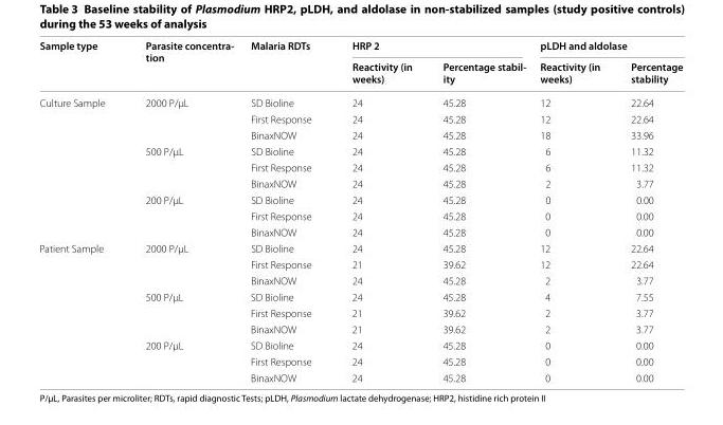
<table><thead><tr><td rowspan="2">Sample type</td><td rowspan="2">Parasite concentra‑ tion</td><td rowspan="2">Malaria RDTs</td><td colspan="2">HRP 2</td><td colspan="2">pLDH and aldolase</td></tr><tr><td>Reactivity (in weeks)</td><td>Percentage stabil‑ ity</td><td>Reactivity (in weeks)</td><td>Percentage stability</td></tr></thead><tbody><tr><td rowspan="9">Culture Sample</td><td rowspan="3">2000 P/µL</td><td>SD Bioline</td><td>24</td><td>45.28</td><td>12</td><td>22.64</td></tr><tr><td>First Response</td><td>24</td><td>45.28</td><td>12</td><td>22.64</td></tr><tr><td>BinaxNOW</td><td>24</td><td>45.28</td><td>18</td><td>33.96</td></tr><tr><td rowspan="3">500 P/µL</td><td>SD Bioline</td><td>24</td><td>45.28</td><td>6</td><td>11.32</td></tr><tr><td>First Response</td><td>24</td><td>45.28</td><td>6</td><td>11.32</td></tr><tr><td>BinaxNOW</td><td>24</td><td>45.28</td><td>2</td><td>3.77</td></tr><tr><td rowspan="3">200 P/µL</td><td>SD Bioline</td><td>24</td><td>45.28</td><td>0</td><td>0.00</td></tr><tr><td>First Response</td><td>24</td><td>45.28</td><td>0</td><td>0.00</td></tr><tr><td>BinaxNOW</td><td>24</td><td>45.28</td><td>0</td><td>0.00</td></tr><tr><td rowspan="9">Patient Sample</td><td rowspan="3">2000 P/µL</td><td>SD Bioline</td><td>24</td><td>45.28</td><td>12</td><td>22.64</td></tr><tr><td>First Response</td><td>21</td><td>39.62</td><td>12</td><td>22.64</td></tr><tr><td>BinaxNOW</td><td>24</td><td>45.28</td><td>2</td><td>3.77</td></tr><tr><td rowspan="3">500 P/µL</td><td>SD Bioline</td><td>24</td><td>45.28</td><td>4</td><td>7.55</td></tr><tr><td>First Response</td><td>21</td><td>39.62</td><td>2</td><td>3.77</td></tr><tr><td>BinaxNOW</td><td>21</td><td>39.62</td><td>2</td><td>3.77</td></tr><tr><td rowspan="3">200 P/µL</td><td>SD Bioline</td><td>24</td><td>45.28</td><td>0</td><td>0.00</td></tr><tr><td>First Response</td><td>24</td><td>45.28</td><td>0</td><td>0.00</td></tr><tr><td>BinaxNOW</td><td>24</td><td>45.28</td><td>0</td><td>0.00</td></tr></tbody></table>